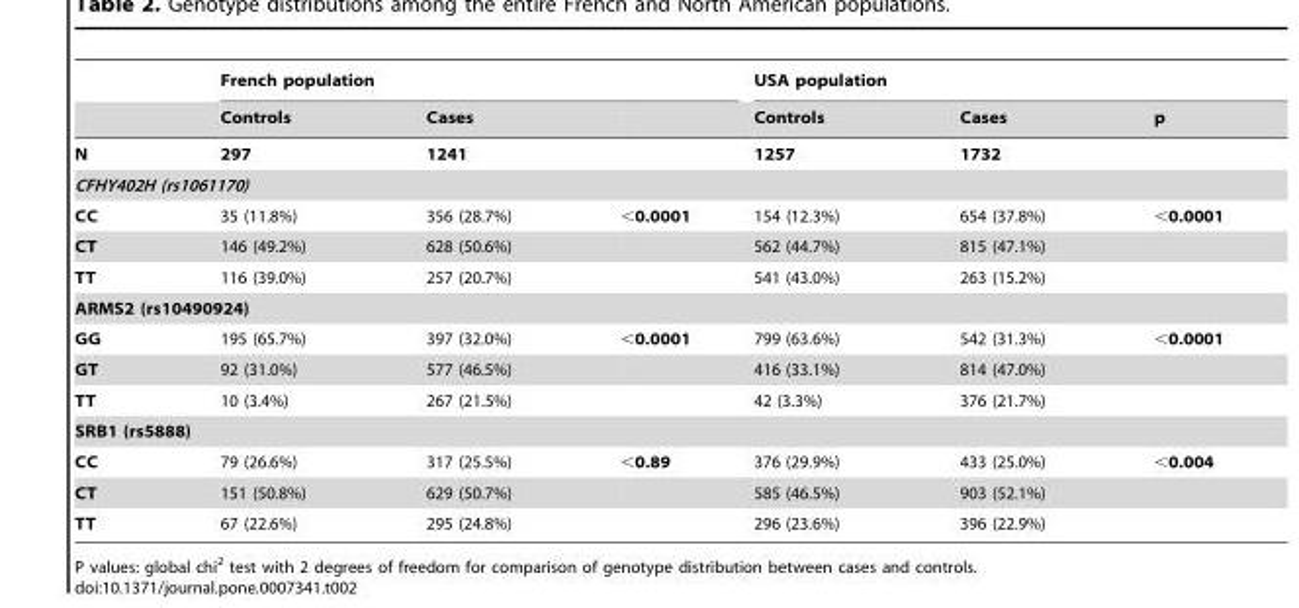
<table><thead><tr><td rowspan="2"></td><td colspan="3">French population</td><td colspan="3">USA population</td></tr><tr><td>Controls</td><td>Cases</td><td></td><td>Controls</td><td>Cases</td><td>p</td></tr></thead><tbody><tr><td>N</td><td>297</td><td>1241</td><td></td><td>1257</td><td>1732</td><td></td></tr><tr><td colspan="7">CFHY402H (rs1061170)</td></tr><tr><td>CC</td><td>35 (11.8%)</td><td>356 (28.7%)</td><td>&lt;0.0001</td><td>154 (12.3%)</td><td>654 (37.8%)</td><td>&lt;0.0001</td></tr><tr><td>CT</td><td>146 (49.2%)</td><td>628 (50.6%)</td><td></td><td>562 (44.7%)</td><td>815 (47.1%)</td><td></td></tr><tr><td>TT</td><td>116 (39.0%)</td><td>257 (20.7%)</td><td></td><td>541 (43.0%)</td><td>263 (15.2%)</td><td></td></tr><tr><td colspan="7">ARMS2 (rs10490924)</td></tr><tr><td>GG</td><td>195 (65.7%)</td><td>397 (32.0%)</td><td>&lt;0.0001</td><td>799 (63.6%)</td><td>542 (31.3%)</td><td>&lt;0.0001</td></tr><tr><td>GT</td><td>92 (31.0%)</td><td>577 (46.5%)</td><td></td><td>416 (33.1%)</td><td>814 (47.0%)</td><td></td></tr><tr><td>TT</td><td>10 (3.4%)</td><td>267 (21.5%)</td><td></td><td>42 (3.3%)</td><td>376 (21.7%)</td><td></td></tr><tr><td colspan="7">SRB1 (rs5888)</td></tr><tr><td>CC</td><td>79 (26.6%)</td><td>317 (25.5%)</td><td>&lt;0.89</td><td>376 (29.9%)</td><td>433 (25.0%)</td><td>&lt;0.004</td></tr><tr><td>CT</td><td>151 (50.8%)</td><td>629 (50.7%)</td><td></td><td>585 (46.5%)</td><td>903 (52.1%)</td><td></td></tr><tr><td>TT</td><td>67 (22.6%)</td><td>295 (24.8%)</td><td></td><td>296 (23.6%)</td><td>396 (22.9%)</td><td></td></tr></tbody></table>